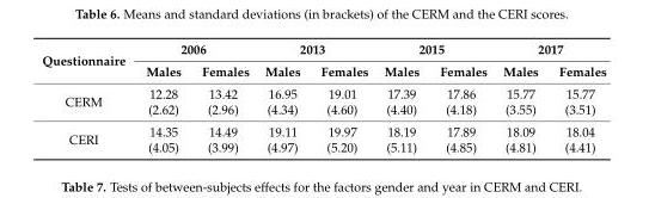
<table><thead><tr><td rowspan="2">Questionnaire</td><td colspan="2">2006</td><td colspan="2">2013</td><td colspan="2">2015</td><td colspan="2">2017</td></tr><tr><td>Males</td><td>Females</td><td>Males</td><td>Females</td><td>Males</td><td>Females</td><td>Males</td><td>Females</td></tr></thead><tbody><tr><td>CERM</td><td>12.28 (2.62)</td><td>13.42 (2.96)</td><td>16.95 (4.34)</td><td>19.01 (4.60)</td><td>17.39 (4.40)</td><td>17.86 (4.18)</td><td>15.77 (3.55)</td><td>15.77 (3.51)</td></tr><tr><td>CERI</td><td>14.35 (4.05)</td><td>14.49 (3.99)</td><td>19.11 (4.97)</td><td>19.97 (5.20)</td><td>18.19 (5.11)</td><td>17.89 (4.85)</td><td>18.09 (4.81)</td><td>18.04 (4.41)</td></tr></tbody></table>